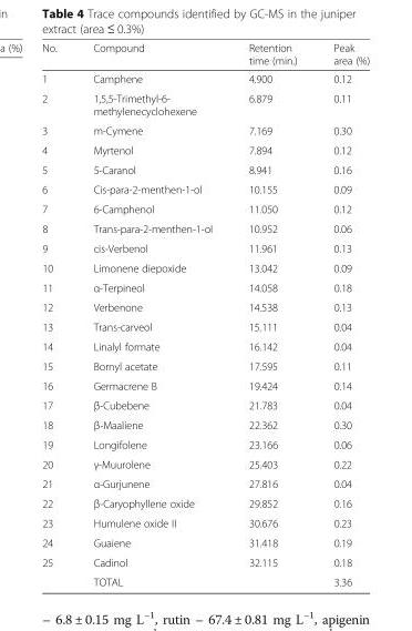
<table><thead><tr><td>No.</td><td>Compound</td><td>Retention time (min.)</td><td>Peak area (%)</td></tr></thead><tbody><tr><td>1</td><td>Camphene</td><td>4.900</td><td>0.12</td></tr><tr><td>2</td><td>1,5,5-Trimethyl-6- methylenecyclohexene</td><td>6.879</td><td>0.11</td></tr><tr><td>3</td><td>m-Cymene</td><td>7.169</td><td>0.30</td></tr><tr><td>4</td><td>Myrtenol</td><td>7.894</td><td>0.12</td></tr><tr><td>5</td><td>5-Caranol</td><td>8.941</td><td>0.16</td></tr><tr><td>6</td><td>Cis-para-2-menthen-1-ol</td><td>10.155</td><td>0.09</td></tr><tr><td>7</td><td>6-Camphenol</td><td>11.050</td><td>0.12</td></tr><tr><td>8</td><td>Trans-para-2-menthen-1-ol</td><td>10.952</td><td>0.06</td></tr><tr><td>9</td><td>cis-Verbenol</td><td>11.961</td><td>0.13</td></tr><tr><td>10</td><td>Limonene diepoxide</td><td>13.042</td><td>0.09</td></tr><tr><td>11</td><td>α-Terpineol</td><td>14.058</td><td>0.18</td></tr><tr><td>12</td><td>Verbenone</td><td>14.538</td><td>0.13</td></tr><tr><td>13</td><td>Trans-carveol</td><td>15.111</td><td>0.04</td></tr><tr><td>14</td><td>Linalyl formate</td><td>16.142</td><td>0.04</td></tr><tr><td>15</td><td>Bornyl acetate</td><td>17.595</td><td>0.11</td></tr><tr><td>16</td><td>Germacrene B</td><td>19.424</td><td>0.14</td></tr><tr><td>17</td><td>β-Cubebene</td><td>21.783</td><td>0.04</td></tr><tr><td>18</td><td>β-Maaliene</td><td>22.362</td><td>0.30</td></tr><tr><td>19</td><td>Longifolene</td><td>23.166</td><td>0.06</td></tr><tr><td>20</td><td>γ-Muurolene</td><td>25.403</td><td>0.22</td></tr><tr><td>21</td><td>α-Gurjunene</td><td>27.816</td><td>0.04</td></tr><tr><td>22</td><td>β-Caryophyllene oxide</td><td>29.852</td><td>0.16</td></tr><tr><td>23</td><td>Humulene oxide II</td><td>30.676</td><td>0.23</td></tr><tr><td>24</td><td>Guaiene</td><td>31.418</td><td>0.19</td></tr><tr><td rowspan="2">25</td><td>Cadinol</td><td>32.115</td><td>0.18</td></tr><tr><td colspan="2">TOTAL</td><td>3.36</td></tr></tbody></table>